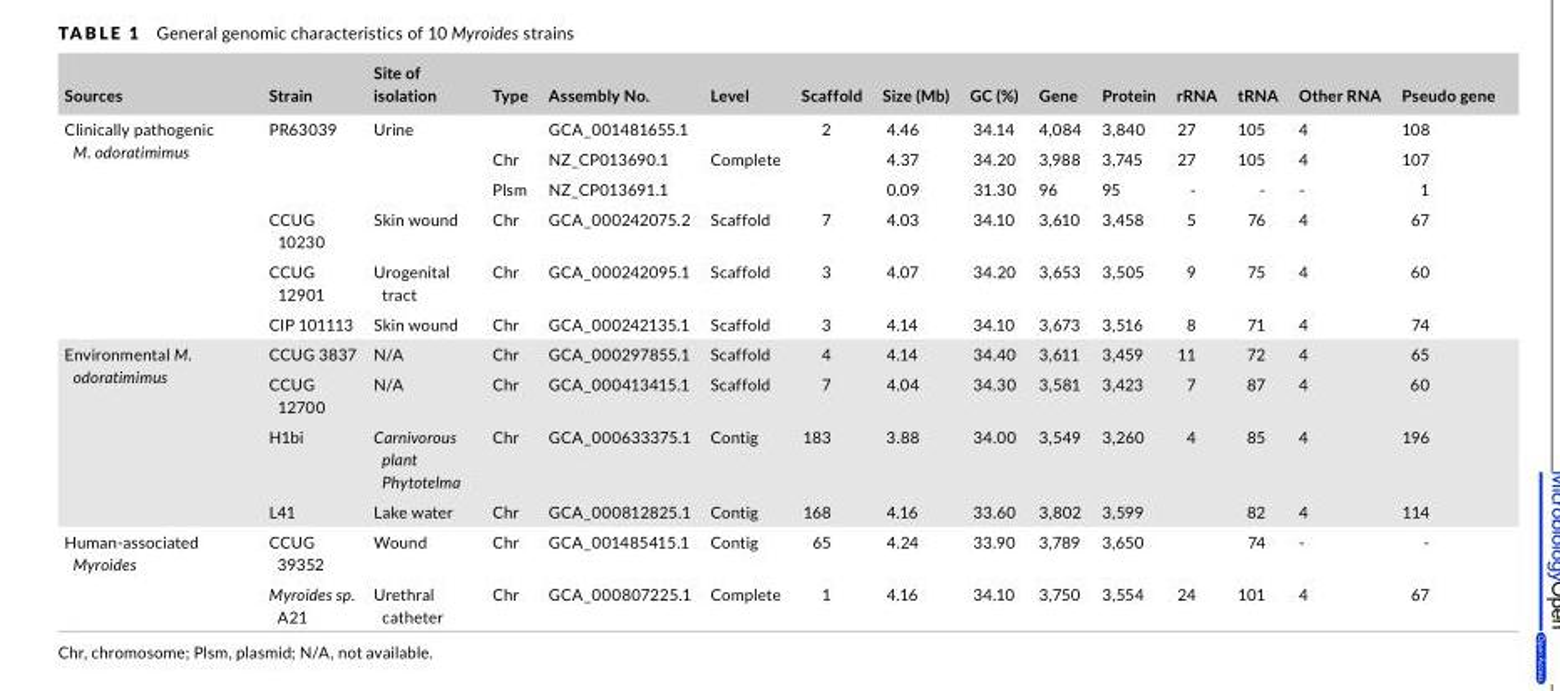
<table><thead><tr><td>Sources</td><td>Strain</td><td>Site of isolation</td><td>Type</td><td>Assembly No.</td><td>Level</td><td>Scaffold</td><td>Size (Mb)</td><td>GC (%)</td><td>Gene</td><td>Protein</td><td>rRNA</td><td>tRNA</td><td>Other RNA</td><td>Pseudo gene</td></tr></thead><tbody><tr><td rowspan="6">Clinically pathogenic M. odoratimimus</td><td rowspan="3">PR63039</td><td rowspan="3">Urine</td><td></td><td>GCA_001481655.1</td><td></td><td>2</td><td>4.46</td><td>34.14</td><td>4,084</td><td>3,840</td><td>27</td><td>105</td><td>4</td><td>108</td></tr><tr><td>Chr</td><td>NZ_CP013690.1</td><td>Complete</td><td></td><td>4.37</td><td>34.20</td><td>3,988</td><td>3,745</td><td>27</td><td>105</td><td>4</td><td>107</td></tr><tr><td>Plsm</td><td>NZ_CP013691.1</td><td></td><td></td><td>0.09</td><td>31.30</td><td>96</td><td>95</td><td>-</td><td>-</td><td>-</td><td>1</td></tr><tr><td>CCUG 10230</td><td>Skin wound</td><td>Chr</td><td>GCA_000242075.2</td><td>Scaffold</td><td>7</td><td>4.03</td><td>34.10</td><td>3,610</td><td>3,458</td><td>5</td><td>76</td><td>4</td><td>67</td></tr><tr><td>CCUG 12901</td><td>Urogenital tract</td><td>Chr</td><td>GCA_000242095.1</td><td>Scaffold</td><td>3</td><td>4.07</td><td>34.20</td><td>3,653</td><td>3,505</td><td>9</td><td>75</td><td>4</td><td>60</td></tr><tr><td>CIP 101113</td><td>Skin wound</td><td>Chr</td><td>GCA_000242135.1</td><td>Scaffold</td><td>3</td><td>4.14</td><td>34.10</td><td>3,673</td><td>3,516</td><td>8</td><td>71</td><td>4</td><td>74</td></tr><tr><td rowspan="4">Environmental M. odoratimimus</td><td>CCUG 3837</td><td>N/A</td><td>Chr</td><td>GCA_000297855.1</td><td>Scaffold</td><td>4</td><td>4.14</td><td>34.40</td><td>3,611</td><td>3,459</td><td>11</td><td>72</td><td>4</td><td>65</td></tr><tr><td>CCUG 12700</td><td>N/A</td><td>Chr</td><td>GCA_000413415.1</td><td>Scaffold</td><td>7</td><td>4.04</td><td>34.30</td><td>3,581</td><td>3,423</td><td>7</td><td>87</td><td>4</td><td>60</td></tr><tr><td>H1bi</td><td>Carnivorous plant Phytotelma</td><td>Chr</td><td>GCA_000633375.1</td><td>Contig</td><td>183</td><td>3.88</td><td>34.00</td><td>3,549</td><td>3,260</td><td>4</td><td>85</td><td>4</td><td>196</td></tr><tr><td>L41</td><td>Lake water</td><td>Chr</td><td>GCA_000812825.1</td><td>Contig</td><td>168</td><td>4.16</td><td>33.60</td><td>3,802</td><td>3,599</td><td></td><td>82</td><td>4</td><td>114</td></tr><tr><td rowspan="2">Human- associated Myroides</td><td>CCUG 39352</td><td>Wound</td><td>Chr</td><td>GCA_001485415.1</td><td>Contig</td><td>65</td><td>4.24</td><td>33.90</td><td>3,789</td><td>3,650</td><td></td><td>74</td><td>-</td><td>-</td></tr><tr><td>Myroides sp. A21</td><td>Urethral catheter</td><td>Chr</td><td>GCA_000807225.1</td><td>Complete</td><td>1</td><td>4.16</td><td>34.10</td><td>3,750</td><td>3,554</td><td>24</td><td>101</td><td>4</td><td>67</td></tr></tbody></table>